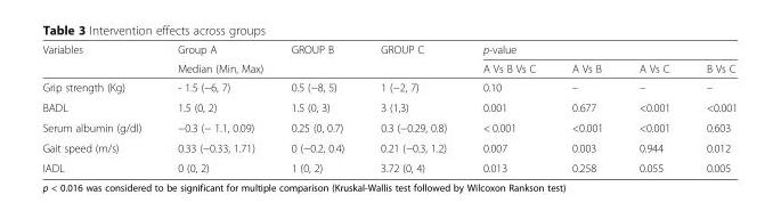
<table><thead><tr><td rowspan="2">Variables</td><td>Group A</td><td>GROUP B</td><td>GROUP C</td><td colspan="4">p-value</td></tr><tr><td colspan="3">Median (Min, Max)</td><td>A Vs B Vs C</td><td>A Vs B</td><td>A Vs C</td><td>B Vs C</td></tr></thead><tbody><tr><td>Grip strength (Kg)</td><td>- 1.5 (−6, 7)</td><td>0.5 (−8, 5)</td><td>1 (−2, 7)</td><td>0.10</td><td>–</td><td>–</td><td>–</td></tr><tr><td>BADL</td><td>1.5 (0, 2)</td><td>1.5 (0, 3)</td><td>3 (1,3)</td><td>0.001</td><td>0.677</td><td>&lt;0.001</td><td>&lt;0.001</td></tr><tr><td>Serum albumin (g/dl)</td><td>−0.3 (− 1.1, 0.09)</td><td>0.25 (0, 0.7)</td><td>0.3 (−0.29, 0.8)</td><td>&lt; 0.001</td><td>&lt;0.001</td><td>&lt;0.001</td><td>0.603</td></tr><tr><td>Gait speed (m/s)</td><td>0.33 (−0.33, 1.71)</td><td>0 (−0.2, 0.4)</td><td>0.21 (−0.3, 1.2)</td><td>0.007</td><td>0.003</td><td>0.944</td><td>0.012</td></tr><tr><td>IADL</td><td>0 (0, 2)</td><td>1 (0, 2)</td><td>3.72 (0, 4)</td><td>0.013</td><td>0.258</td><td>0.055</td><td>0.005</td></tr></tbody></table>